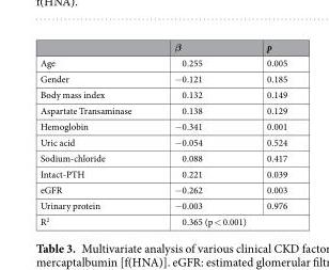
<table><thead><tr><td></td><td>β</td><td>p</td></tr></thead><tbody><tr><td>Age</td><td>0.255</td><td>0.005</td></tr><tr><td>Gender</td><td>−0.121</td><td>0.185</td></tr><tr><td>Body mass index</td><td>0.132</td><td>0.149</td></tr><tr><td>Aspartate Transaminase</td><td>0.138</td><td>0.129</td></tr><tr><td>Hemoglobin</td><td>−0.341</td><td>0.001</td></tr><tr><td>Uric acid</td><td>−0.054</td><td>0.524</td></tr><tr><td>Sodium-chloride</td><td>0.088</td><td>0.417</td></tr><tr><td>Intact-PTH</td><td>0.221</td><td>0.039</td></tr><tr><td>eGFR</td><td>−0.262</td><td>0.003</td></tr><tr><td>Urinary protein</td><td>−0.003</td><td>0.976</td></tr><tr><td>R<sup>2</sup></td><td colspan="2">0.365 (p &lt; 0.001)</td></tr></tbody></table>